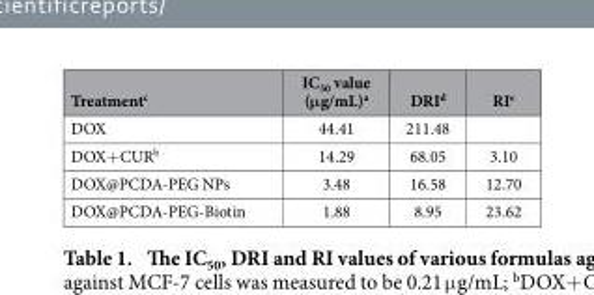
<table><thead><tr><td>Treatment<sup>c</sup></td><td>IC<sub>50</sub> value (μg/mL)<sup>a</sup></td><td>DRI<sup>d</sup></td><td>RI<sup>e</sup></td></tr></thead><tbody><tr><td>DOX</td><td>44.41</td><td>211.48</td><td></td></tr><tr><td>DOX+ CUR<sup>b</sup></td><td>14.29</td><td>68.05</td><td>3.10</td></tr><tr><td>DOX@PCDA-PEG NPs</td><td>3.48</td><td>16.58</td><td>12.70</td></tr><tr><td>DOX@PCDA-PEG-Biotin</td><td>1.88</td><td>8.95</td><td>23.62</td></tr></tbody></table>